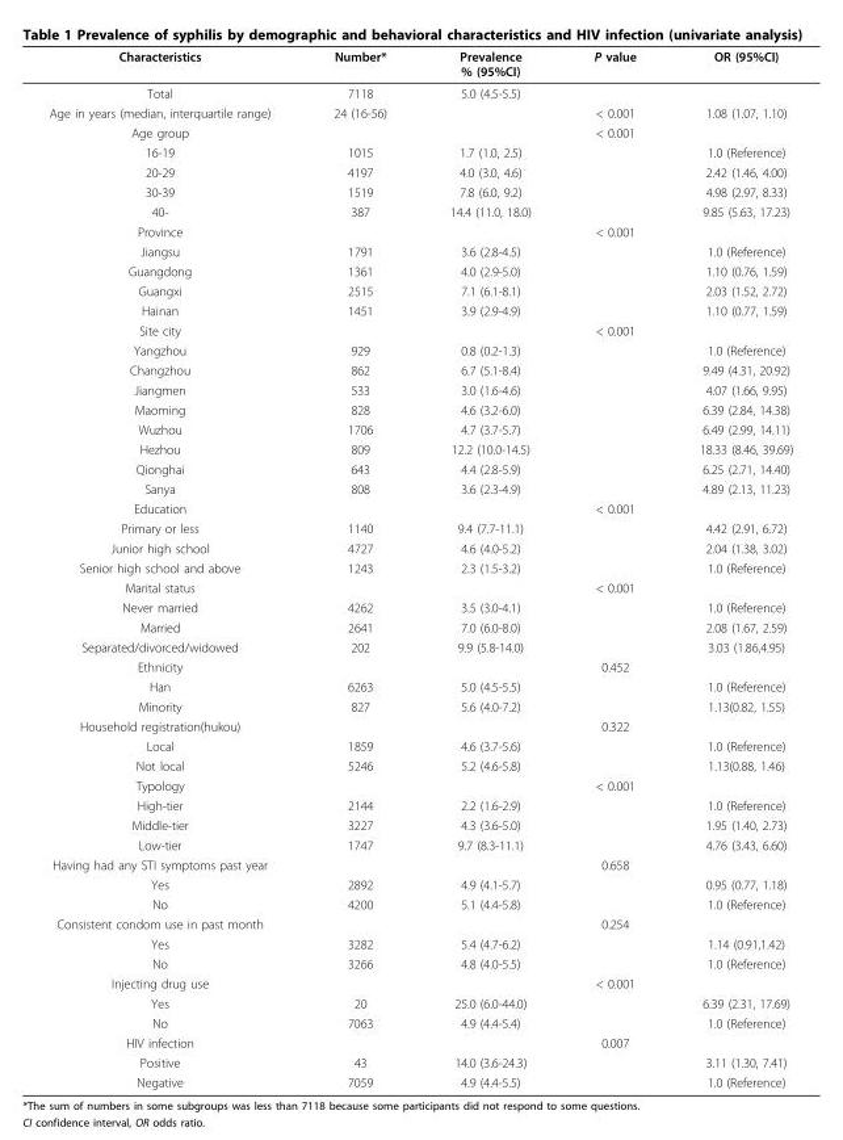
<table><thead><tr><td>Characteristics</td><td>Number*</td><td>Prevalence % (95%CI)</td><td>P value</td><td>OR (95%CI)</td></tr></thead><tbody><tr><td>Total</td><td>7118</td><td>5.0 (4.5-5.5)</td><td></td><td></td></tr><tr><td>Age in years (median, interquartile range)</td><td>24 (16-56)</td><td></td><td>&lt; 0.001</td><td>1.08 (1.07, 1.10)</td></tr><tr><td>Age group</td><td></td><td></td><td>&lt; 0.001</td><td></td></tr><tr><td>16-19</td><td>1015</td><td>1.7 (1.0, 2.5)</td><td></td><td>1.0 (Reference)</td></tr><tr><td>20-29</td><td>4197</td><td>4.0 (3.0, 4.6)</td><td></td><td>2.42 (1.46, 4.00)</td></tr><tr><td>30-39</td><td>1519</td><td>7.8 (6.0, 9.2)</td><td></td><td>4.98 (2.97, 8.33)</td></tr><tr><td>40-</td><td>387</td><td>14.4 (11.0, 18.0)</td><td></td><td>9.85 (5.63, 17.23)</td></tr><tr><td>Province</td><td></td><td></td><td>&lt; 0.001</td><td></td></tr><tr><td>Jiangsu</td><td>1791</td><td>3.6 (2.8-4.5)</td><td></td><td>1.0 (Reference)</td></tr><tr><td>Guangdong</td><td>1361</td><td>4.0 (2.9-5.0)</td><td></td><td>1.10 (0.76, 1.59)</td></tr><tr><td>Guangxi</td><td>2515</td><td>7.1 (6.1-8.1)</td><td></td><td>2.03 (1.52, 2.72)</td></tr><tr><td>Hainan</td><td>1451</td><td>3.9 (2.9-4.9)</td><td></td><td>1.10 (0.77, 1.59)</td></tr><tr><td>Site city</td><td></td><td></td><td>&lt; 0.001</td><td></td></tr><tr><td>Yangzhou</td><td>929</td><td>0.8 (0.2-1.3)</td><td></td><td>1.0 (Reference)</td></tr><tr><td>Changzhou</td><td>862</td><td>6.7 (5.1-8.4)</td><td></td><td>9.49 (4.31, 20.92)</td></tr><tr><td>Jiangmen</td><td>533</td><td>3.0 (1.6-4.6)</td><td></td><td>4.07 (1.66, 9.95)</td></tr><tr><td>Maoming</td><td>828</td><td>4.6 (3.2-6.0)</td><td></td><td>6.39 (2.84, 14.38)</td></tr><tr><td>Wuzhou</td><td>1706</td><td>4.7 (3.7-5.7)</td><td></td><td>6.49 (2.99, 14.11)</td></tr><tr><td>Hezhou</td><td>809</td><td>12.2 (10.0-14.5)</td><td></td><td>18.33 (8.46, 39.69)</td></tr><tr><td>Qionghai</td><td>643</td><td>4.4 (2.8-5.9)</td><td></td><td>6.25 (2.71, 14.40)</td></tr><tr><td>Sanya</td><td>808</td><td>3.6 (2.3-4.9)</td><td></td><td>4.89 (2.13, 11.23)</td></tr><tr><td>Education</td><td></td><td></td><td>&lt; 0.001</td><td></td></tr><tr><td>Primary or less</td><td>1140</td><td>9.4 (7.7-11.1)</td><td></td><td>4.42 (2.91, 6.72)</td></tr><tr><td>Junior high school</td><td>4727</td><td>4.6 (4.0-5.2)</td><td></td><td>2.04 (1.38, 3.02)</td></tr><tr><td>Senior high school and above</td><td>1243</td><td>2.3 (1.5-3.2)</td><td></td><td>1.0 (Reference)</td></tr><tr><td>Marital status</td><td></td><td></td><td>&lt; 0.001</td><td></td></tr><tr><td>Never married</td><td>4262</td><td>3.5 (3.0-4.1)</td><td></td><td>1.0 (Reference)</td></tr><tr><td>Married</td><td>2641</td><td>7.0 (6.0-8.0)</td><td></td><td>2.08 (1.67, 2.59)</td></tr><tr><td>Separated/divorced/widowed</td><td>202</td><td>9.9 (5.8-14.0)</td><td></td><td>3.03 (1.86,4.95)</td></tr><tr><td>Ethnicity</td><td></td><td></td><td>0.452</td><td></td></tr><tr><td>Han</td><td>6263</td><td>5.0 (4.5-5.5)</td><td></td><td>1.0 (Reference)</td></tr><tr><td>Minority</td><td>827</td><td>5.6 (4.0-7.2)</td><td></td><td>1.13(0.82, 1.55)</td></tr><tr><td>Household registration(hukou)</td><td></td><td></td><td>0.322</td><td></td></tr><tr><td>Local</td><td>1859</td><td>4.6 (3.7-5.6)</td><td></td><td>1.0 (Reference)</td></tr><tr><td>Not local</td><td>5246</td><td>5.2 (4.6-5.8)</td><td></td><td>1.13(0.88, 1.46)</td></tr><tr><td>Typology</td><td></td><td></td><td>&lt; 0.001</td><td></td></tr><tr><td>High-tier</td><td>2144</td><td>2.2 (1.6-2.9)</td><td></td><td>1.0 (Reference)</td></tr><tr><td>Middle-tier</td><td>3227</td><td>4.3 (3.6-5.0)</td><td></td><td>1.95 (1.40, 2.73)</td></tr><tr><td>Low-tier</td><td>1747</td><td>9.7 (8.3-11.1)</td><td></td><td>4.76 (3.43, 6.60)</td></tr><tr><td>Having had any STI symptoms past year</td><td></td><td></td><td>0.658</td><td></td></tr><tr><td>Yes</td><td>2892</td><td>4.9 (4.1-5.7)</td><td></td><td>0.95 (0.77, 1.18)</td></tr><tr><td>No</td><td>4200</td><td>5.1 (4.4-5.8)</td><td></td><td>1.0 (Reference)</td></tr><tr><td>Consistent condom use in past month</td><td></td><td></td><td>0.254</td><td></td></tr><tr><td>Yes</td><td>3282</td><td>5.4 (4.7-6.2)</td><td></td><td>1.14 (0.91,1.42)</td></tr><tr><td>No</td><td>3266</td><td>4.8 (4.0-5.5)</td><td></td><td>1.0 (Reference)</td></tr><tr><td>Injecting drug use</td><td></td><td></td><td>&lt; 0.001</td><td></td></tr><tr><td>Yes</td><td>20</td><td>25.0 (6.0-44.0)</td><td></td><td>6.39 (2.31, 17.69)</td></tr><tr><td>No</td><td>7063</td><td>4.9 (4.4-5.4)</td><td></td><td>1.0 (Reference)</td></tr><tr><td>HIV infection</td><td></td><td></td><td>0.007</td><td></td></tr><tr><td>Positive</td><td>43</td><td>14.0 (3.6-24.3)</td><td></td><td>3.11 (1.30, 7.41)</td></tr><tr><td>Negative</td><td>7059</td><td>4.9 (4.4-5.5)</td><td></td><td>1.0 (Reference)</td></tr></tbody></table>